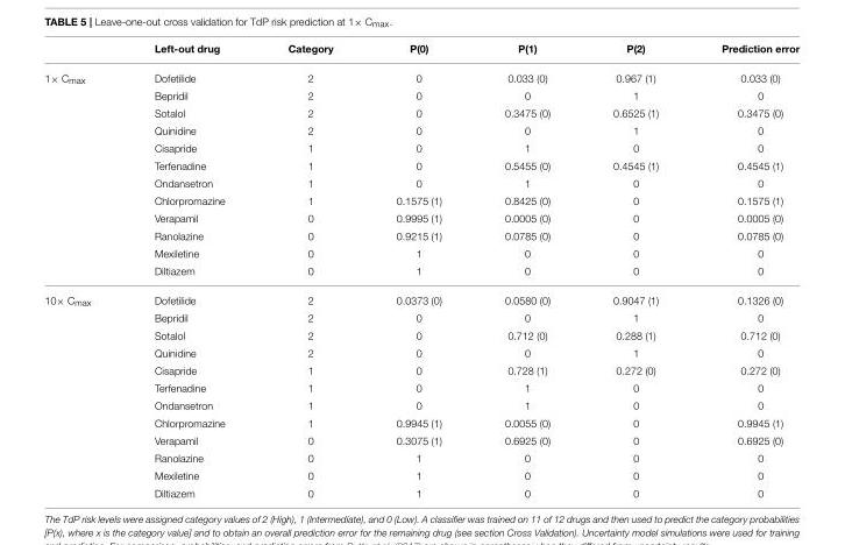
<table><thead><tr><td></td><td>Left-out drug</td><td>Category</td><td>P(0)</td><td>P(1)</td><td>P(2)</td><td>Prediction error</td></tr></thead><tbody><tr><td rowspan="12">1× C<sub>max</sub></td><td>Dofetilide</td><td>2</td><td>0</td><td>0.033 (0)</td><td>0.967 (1)</td><td>0.033 (0)</td></tr><tr><td>Bepridil</td><td>2</td><td>0</td><td>0</td><td>1</td><td>0</td></tr><tr><td>Sotalol</td><td>2</td><td>0</td><td>0.3475 (0)</td><td>0.6525 (1)</td><td>0.3475 (0)</td></tr><tr><td>Quinidine</td><td>2</td><td>0</td><td>0</td><td>1</td><td>0</td></tr><tr><td>Cisapride</td><td>1</td><td>0</td><td>1</td><td>0</td><td>0</td></tr><tr><td>Terfenadine</td><td>1</td><td>0</td><td>0.5455 (0)</td><td>0.4545 (1)</td><td>0.4545 (1)</td></tr><tr><td>Ondansetron</td><td>1</td><td>0</td><td>1</td><td>0</td><td>0</td></tr><tr><td>Chlorpromazine</td><td>1</td><td>0.1575 (1)</td><td>0.8425 (0)</td><td>0</td><td>0.1575 (1)</td></tr><tr><td>Verapamil</td><td>0</td><td>0.9995 (1)</td><td>0.0005 (0)</td><td>0</td><td>0.0005 (0)</td></tr><tr><td>Ranolazine</td><td>0</td><td>0.9215 (1)</td><td>0.0785 (0)</td><td>0</td><td>0.0785 (0)</td></tr><tr><td>Mexiletine</td><td>0</td><td>1</td><td>0</td><td>0</td><td>0</td></tr><tr><td>Diltiazem</td><td>0</td><td>1</td><td>0</td><td>0</td><td>0</td></tr><tr><td rowspan="12">10× C<sub>max</sub></td><td>Dofetilide</td><td>2</td><td>0.0373 (0)</td><td>0.0580 (0)</td><td>0.9047 (1)</td><td>0.1326 (0)</td></tr><tr><td>Bepridil</td><td>2</td><td>0</td><td>0</td><td>1</td><td>0</td></tr><tr><td>Sotalol</td><td>2</td><td>0</td><td>0.712 (0)</td><td>0.288 (1)</td><td>0.712 (0)</td></tr><tr><td>Quinidine</td><td>2</td><td>0</td><td>0</td><td>1</td><td>0</td></tr><tr><td>Cisapride</td><td>1</td><td>0</td><td>0.728 (1)</td><td>0.272 (0)</td><td>0.272 (0)</td></tr><tr><td>Terfenadine</td><td>1</td><td>0</td><td>1</td><td>0</td><td>0</td></tr><tr><td>Ondansetron</td><td>1</td><td>0</td><td>1</td><td>0</td><td>0</td></tr><tr><td>Chlorpromazine</td><td>1</td><td>0.9945 (1)</td><td>0.0055 (0)</td><td>0</td><td>0.9945 (1)</td></tr><tr><td>Verapamil</td><td>0</td><td>0.3075 (1)</td><td>0.6925 (0)</td><td>0</td><td>0.6925 (0)</td></tr><tr><td>Ranolazine</td><td>0</td><td>1</td><td>0</td><td>0</td><td>0</td></tr><tr><td>Mexiletine</td><td>0</td><td>1</td><td>0</td><td>0</td><td>0</td></tr><tr><td>Diltiazem</td><td>0</td><td>1</td><td>0</td><td>0</td><td>0</td></tr></tbody></table>